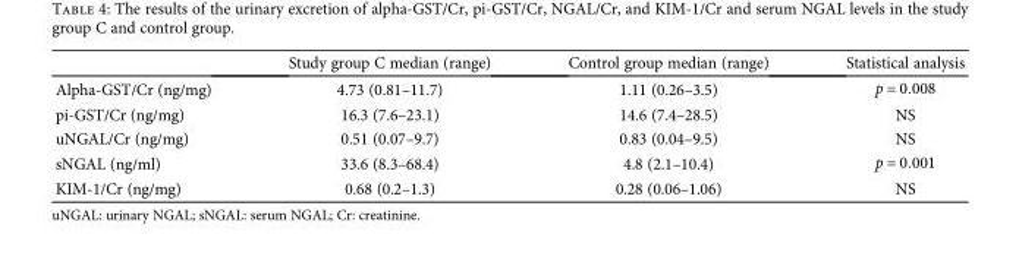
<table><thead><tr><td></td><td>Study group C median (range)</td><td>Control group median (range)</td><td>Statistical analysis</td></tr></thead><tbody><tr><td>Alpha-GST/Cr (ng/mg)</td><td>4.73 (0.81–11.7)</td><td>1.11 (0.26–3.5)</td><td>p = 0 008</td></tr><tr><td>pi-GST/Cr (ng/mg)</td><td>16.3 (7.6–23.1)</td><td>14.6 (7.4–28.5)</td><td>NS</td></tr><tr><td>uNGAL/Cr (ng/mg)</td><td>0.51 (0.07–9.7)</td><td>0.83 (0.04–9.5)</td><td>NS</td></tr><tr><td>sNGAL (ng/ml)</td><td>33.6 (8.3–68.4)</td><td>4.8 (2.1–10.4)</td><td>p = 0 001</td></tr><tr><td>KIM-1/Cr (ng/mg)</td><td>0.68 (0.2–1.3)</td><td>0.28 (0.06–1.06)</td><td>NS</td></tr></tbody></table>